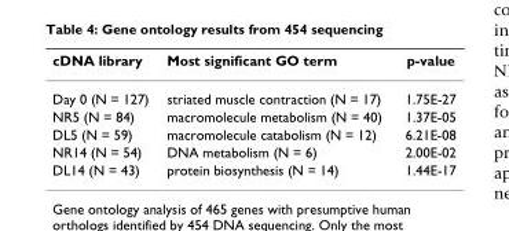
<table><thead><tr><td>cDNA library</td><td>Most significant GO term</td><td>p-value</td></tr></thead><tbody><tr><td>Day 0 (N = 127)</td><td>striated muscle contraction (N = 17)</td><td>1.75E-27</td></tr><tr><td>NR5 (N = 84)</td><td>macromolecule metabolism (N = 40)</td><td>1.37E-05</td></tr><tr><td>DL5 (N = 59)</td><td>macromolecule catabolism (N = 12)</td><td>6.21E-08</td></tr><tr><td>NR14 (N = 54)</td><td>DNA metabolism (N = 6)</td><td>2.00E-02</td></tr><tr><td>DL14 (N = 43)</td><td>protein biosynthesis (N = 14)</td><td>1.44E-17</td></tr></tbody></table>